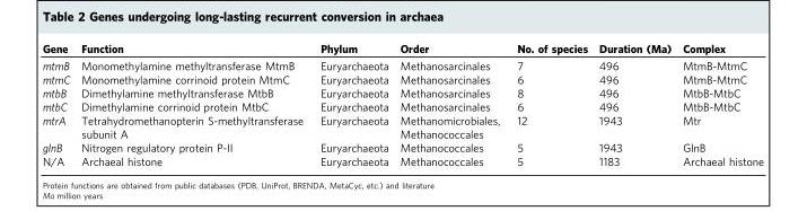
<table><thead><tr><td>Gene</td><td>Function</td><td>Phylum</td><td>Order</td><td>No. of species</td><td>Duration (Ma)</td><td>Complex</td></tr></thead><tbody><tr><td>mtmB</td><td>Monomethylamine methyltransferase MtmB</td><td>Euryarchaeota</td><td>Methanosarcinales</td><td>7</td><td>496</td><td>MtmB-MtmC</td></tr><tr><td>mtmC</td><td>Monomethylamine corrinoid protein MtmC</td><td>Euryarchaeota</td><td>Methanosarcinales</td><td>6</td><td>496</td><td>MtmB-MtmC</td></tr><tr><td>mtbB</td><td>Dimethylamine methyltransferase MtbB</td><td>Euryarchaeota</td><td>Methanosarcinales</td><td>8</td><td>496</td><td>MtbB-MtbC</td></tr><tr><td>mtbC</td><td>Dimethylamine corrinoid protein MtbC</td><td>Euryarchaeota</td><td>Methanosarcinales</td><td>6</td><td>496</td><td>MtbB-MtbC</td></tr><tr><td>mtrA</td><td>Tetrahydromethanopterin S-methyltransferase subunit A</td><td>Euryarchaeota</td><td>Methanomicrobiales, Methanococcales</td><td>12</td><td>1943</td><td>Mtr</td></tr><tr><td>glnB</td><td>Nitrogen regulatory protein P-II</td><td>Euryarchaeota</td><td>Methanococcales</td><td>5</td><td>1943</td><td>GlnB</td></tr><tr><td>N/A</td><td>Archaeal histone</td><td>Euryarchaeota</td><td>Methanococcales</td><td>5</td><td>1183</td><td>Archaeal histone</td></tr></tbody></table>